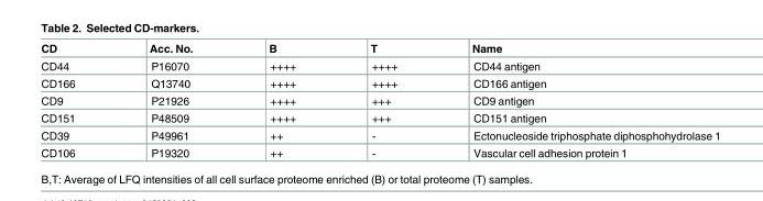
<table><thead><tr><td>CD</td><td>Acc. No.</td><td>B</td><td>T</td><td>Name</td></tr></thead><tbody><tr><td>CD44</td><td>P16070</td><td>++++</td><td>++++</td><td>CD44 antigen</td></tr><tr><td>CD166</td><td>Q13740</td><td>++++</td><td>++++</td><td>CD166 antigen</td></tr><tr><td>CD9</td><td>P21926</td><td>++++</td><td>+++</td><td>CD9 antigen</td></tr><tr><td>CD151</td><td>P48509</td><td>++++</td><td>+++</td><td>CD151 antigen</td></tr><tr><td>CD39</td><td>P49961</td><td>++</td><td>-</td><td>Ectonucleoside triphosphate diphosphohydrolase 1</td></tr><tr><td>CD106</td><td>P19320</td><td>++</td><td>-</td><td>Vascular cell adhesion protein 1</td></tr></tbody></table>